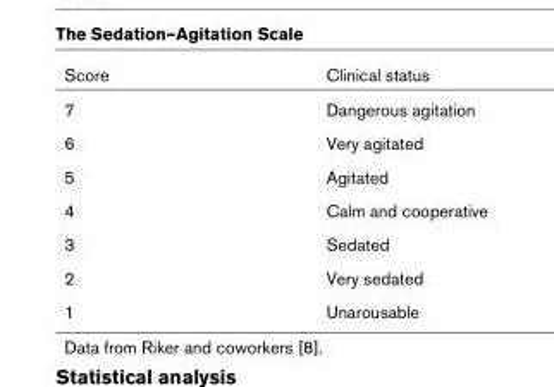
<table><thead><tr><td>Score</td><td>Clinical status</td></tr></thead><tbody><tr><td>7</td><td>Dangerous agitation</td></tr><tr><td>6</td><td>Very agitated</td></tr><tr><td>5</td><td>Agitated</td></tr><tr><td>4</td><td>Calm and cooperative</td></tr><tr><td>3</td><td>Sedated</td></tr><tr><td>2</td><td>Very sedated</td></tr><tr><td>1</td><td>Unarousable</td></tr></tbody></table>